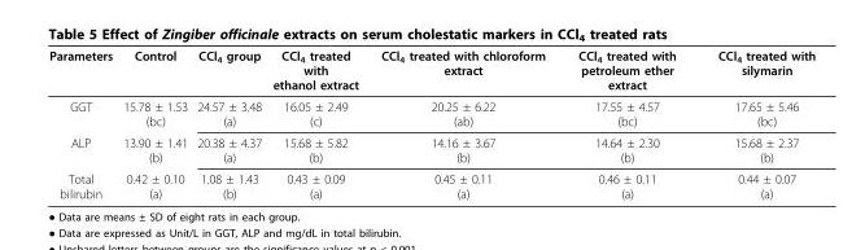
<table><thead><tr><td>Parameters</td><td>Control</td><td>CCl<sub>4</sub> group</td><td>CCl<sub>4</sub> treated with ethanol extract</td><td>CCl<sub>4</sub> treated with chloroform extract</td><td>CCl<sub>4</sub> treated with petroleum ether extract</td><td>CCl<sub>4</sub> treated with silymarin</td></tr></thead><tbody><tr><td>GGT</td><td>15.78 ± 1.53 (bc)</td><td>24.57 ± 3.48 (a)</td><td>16.05 ± 2.49 (c)</td><td>20.25 ± 6.22 (ab)</td><td>17.55 ± 4.57 (bc)</td><td>17.65 ± 5.46 (bc)</td></tr><tr><td>ALP</td><td>13.90 ± 1.41 (b)</td><td>20.38 ± 4.37 (a)</td><td>15.68 ± 5.82 (b)</td><td>14.16 ± 3.67 (b)</td><td>14.64 ± 2.30 (b)</td><td>15.68 ± 2.37 (b)</td></tr><tr><td>Total bilirubin</td><td>0.42 ± 0.10 (a)</td><td>1.08 ± 1.43 (b)</td><td>0.43 ± 0.09 (a)</td><td>0.45 ± 0.11 (a)</td><td>0.46 ± 0.11 (a)</td><td>0.44 ± 0.07 (a)</td></tr></tbody></table>